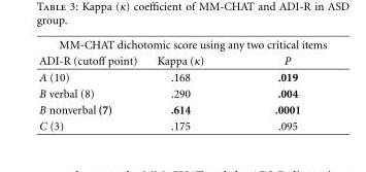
<table><thead><tr><td colspan="3">MM-CHAT dichotomic score using any two critical ´ıtems</td></tr><tr><td>ADI-R (cutoff point)</td><td>Kappa (κ)</td><td>P</td></tr></thead><tbody><tr><td>A (10)</td><td>.168</td><td>.019</td></tr><tr><td>B verbal (8)</td><td>.290</td><td>.004</td></tr><tr><td>B nonverbal (7)</td><td>.614</td><td>.0001</td></tr><tr><td>C (3)</td><td>.175</td><td>.095</td></tr></tbody></table>